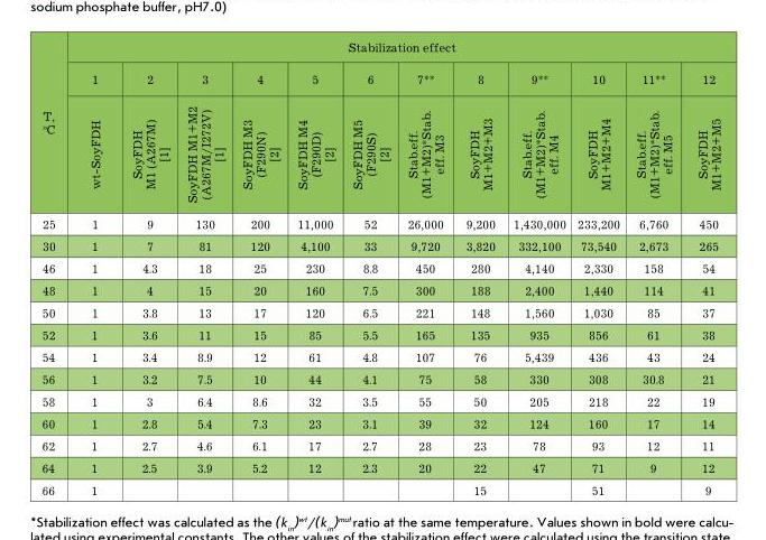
<table><thead><tr><td rowspan="3">T, °C</td><td colspan="12">Stabilization effect</td></tr><tr><td rowspan="2">1 wt-SoyFDH</td><td rowspan="2">2 SoyFDH М1 (A267M) [1]</td><td rowspan="2">3 SoyFDH М1+М2 (A267M/I272V) [1]</td><td rowspan="2">4 SoyFDH М3 (F290N) [2]</td><td rowspan="2">5 SoyFDH М4 (F290D) [2]</td><td rowspan="2">6 SoyFDH М5 (F290S) [2]</td><td rowspan="2">7** Stab.eff. (М1+М2)*Stab. eff. М3</td><td rowspan="2">8 SoyFDH М1+М2+М3</td><td rowspan="2">9** Stab.eff. (М1+М2)*Stab. eff. М4</td><td rowspan="2">10 SoyFDH М1+М2+М4</td><td rowspan="2">11** Stab.eff. (М1+М2)*Stab. eff. М5</td><td rowspan="2">12 SoyFDH М1+М2+М5</td></tr><tr></tr></thead><tbody><tr><td>25</td><td>1</td><td>9</td><td>130</td><td>200</td><td>11,000</td><td>52</td><td>26,000</td><td>9,200</td><td>1,430,000</td><td>233,200</td><td>6,760</td><td>450</td></tr><tr><td>30</td><td>1</td><td>7</td><td>81</td><td>120</td><td>4,100</td><td>33</td><td>9,720</td><td>3,820</td><td>332,100</td><td>73,540</td><td>2,673</td><td>265</td></tr><tr><td>46</td><td>1</td><td>4.3</td><td>18</td><td>25</td><td>230</td><td>8.8</td><td>450</td><td>280</td><td>4,140</td><td>2,330</td><td>158</td><td>54</td></tr><tr><td>48</td><td>1</td><td>4</td><td>15</td><td>20</td><td>160</td><td>7.5</td><td>300</td><td>188</td><td>2,400</td><td>1,440</td><td>114</td><td>41</td></tr><tr><td>50</td><td>1</td><td>3.8</td><td>13</td><td>17</td><td>120</td><td>6.5</td><td>221</td><td>148</td><td>1,560</td><td>1,030</td><td>85</td><td>37</td></tr><tr><td>52</td><td>1</td><td>3.6</td><td>11</td><td>15</td><td>85</td><td>5.5</td><td>165</td><td>135</td><td>935</td><td>856</td><td>61</td><td>38</td></tr><tr><td>54</td><td>1</td><td>3.4</td><td>8.9</td><td>12</td><td>61</td><td>4.8</td><td>107</td><td>76</td><td>5,439</td><td>436</td><td>43</td><td>24</td></tr><tr><td>56</td><td>1</td><td>3.2</td><td>7.5</td><td>10</td><td>44</td><td>4.1</td><td>75</td><td>58</td><td>330</td><td>308</td><td>30.8</td><td>21</td></tr><tr><td>58</td><td>1</td><td>3</td><td>6.4</td><td>8.6</td><td>32</td><td>3.5</td><td>55</td><td>50</td><td>205</td><td>218</td><td>22</td><td>19</td></tr><tr><td>60</td><td>1</td><td>2.8</td><td>5.4</td><td>7.3</td><td>23</td><td>3.1</td><td>39</td><td>32</td><td>124</td><td>160</td><td>17</td><td>14</td></tr><tr><td>62</td><td>1</td><td>2.7</td><td>4.6</td><td>6.1</td><td>17</td><td>2.7</td><td>28</td><td>23</td><td>78</td><td>93</td><td>12</td><td>11</td></tr><tr><td>64</td><td>1</td><td>2.5</td><td>3.9</td><td>5.2</td><td>12</td><td>2.3</td><td>20</td><td>22</td><td>47</td><td>71</td><td>9</td><td>12</td></tr><tr><td>66</td><td>1</td><td></td><td></td><td></td><td></td><td></td><td></td><td>15</td><td></td><td>51</td><td></td><td>9</td></tr></tbody></table>